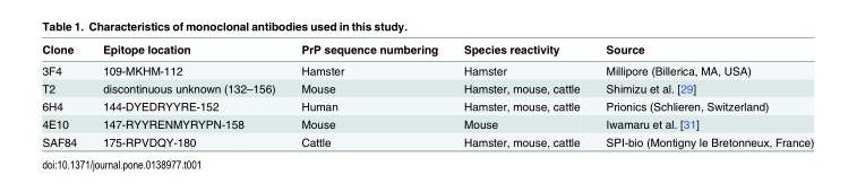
<table><thead><tr><td>Clone</td><td>Epitope location</td><td>PrP sequence numbering</td><td>Species reactivity</td><td>Source</td></tr></thead><tbody><tr><td>3F4</td><td>109-MKHM-112</td><td>Hamster</td><td>Hamster</td><td>Millipore (Billerica, MA, USA)</td></tr><tr><td>T2</td><td>discontinuous unknown (132–156)</td><td>Mouse</td><td>Hamster, mouse, cattle</td><td>Shimizu et al. [29]</td></tr><tr><td>6H4</td><td>144-DYEDRYYRE-152</td><td>Human</td><td>Hamster, mouse, cattle</td><td>Prionics (Schlieren, Switzerland)</td></tr><tr><td>4E10</td><td>147-RYYRENMYRYPN-158</td><td>Mouse</td><td>Mouse</td><td>Iwamaru et al. [31]</td></tr><tr><td>SAF84</td><td>175-RPVDQY-180</td><td>Cattle</td><td>Hamster, mouse, cattle</td><td>SPI-bio (Montigny le Bretonneux, France)</td></tr></tbody></table>